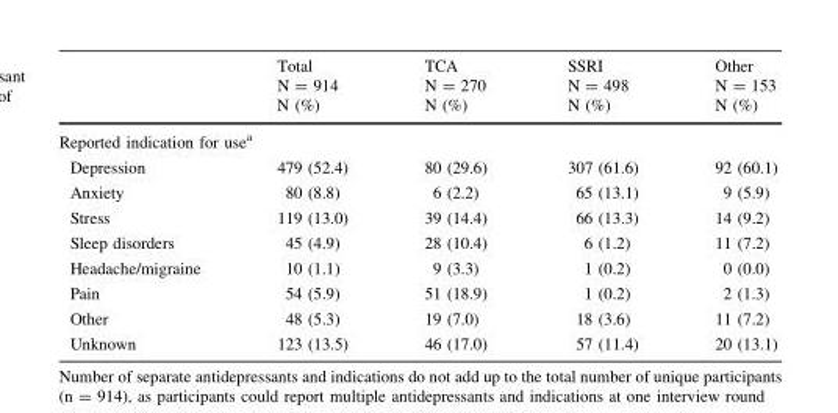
<table><thead><tr><td rowspan="3"></td><td rowspan="3">Total N = 914 N (%)</td><td rowspan="3">TCA N = 270 N (%)</td><td rowspan="3">SSRI N = 498 N (%)</td><td rowspan="3">Other N = 153 N (%)</td></tr><tr></tr><tr></tr></thead><tbody><tr><td colspan="5">Reported indication for use<sup>a</sup></td></tr><tr><td>Depression</td><td>479 (52.4)</td><td>80 (29.6)</td><td>307 (61.6)</td><td>92 (60.1)</td></tr><tr><td>Anxiety</td><td>80 (8.8)</td><td>6 (2.2)</td><td>65 (13.1)</td><td>9 (5.9)</td></tr><tr><td>Stress</td><td>119 (13.0)</td><td>39 (14.4)</td><td>66 (13.3)</td><td>14 (9.2)</td></tr><tr><td>Sleep disorders</td><td>45 (4.9)</td><td>28 (10.4)</td><td>6 (1.2)</td><td>11 (7.2)</td></tr><tr><td>Headache/migraine</td><td>10 (1.1)</td><td>9 (3.3)</td><td>1 (0.2)</td><td>0 (0.0)</td></tr><tr><td>Pain</td><td>54 (5.9)</td><td>51 (18.9)</td><td>1 (0.2)</td><td>2 (1.3)</td></tr><tr><td>Other</td><td>48 (5.3)</td><td>19 (7.0)</td><td>18 (3.6)</td><td>11 (7.2)</td></tr><tr><td>Unknown</td><td>123 (13.5)</td><td>46 (17.0)</td><td>57 (11.4)</td><td>20 (13.1)</td></tr></tbody></table>